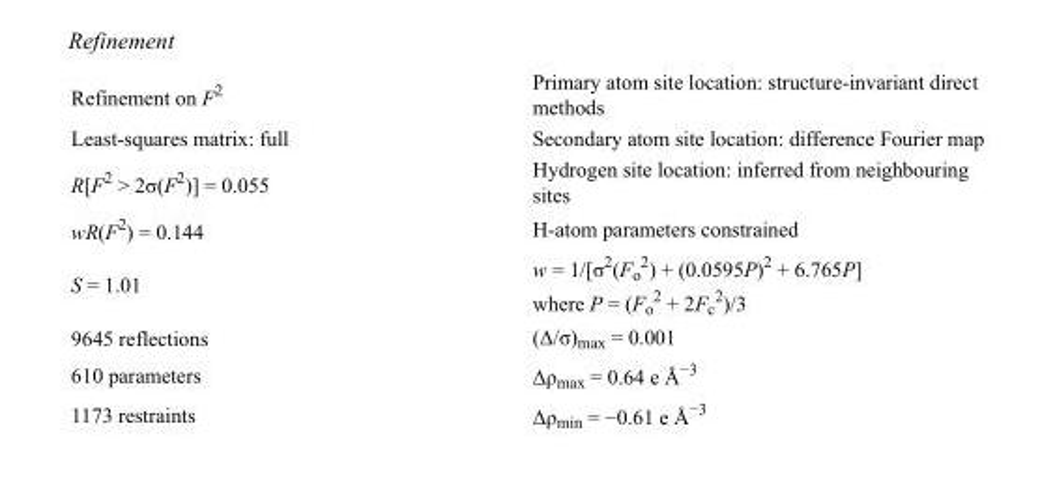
<table><tbody><tr><td>Refinement on F<sup>2</sup></td><td>Primary atom site location: structure-invariant direct methods</td></tr><tr><td>Least-squares matrix: full</td><td>Secondary atom site location: difference Fourier map</td></tr><tr><td>R[F<sup>2</sup> &gt; 2σ(F<sup>2</sup>)] = 0.055</td><td>Hydrogen site location: inferred from neighbouring sites</td></tr><tr><td>wR(F<sup>2</sup>) = 0.144</td><td>H-atom parameters constrained</td></tr><tr><td>S = 1.01</td><td>w = 1/[σ<sup>2</sup>(F<sub>o</sub> <sup>2</sup>) + (0.0595P)<sup>2</sup> + 6.765P] where P = (F<sub>o</sub> <sup>2</sup> + 2F<sub>c</sub> <sup>2</sup>)/3</td></tr><tr><td>9645 reflections</td><td>(Δ/σ)<sub>max</sub> = 0.001</td></tr><tr><td>610 parameters</td><td>Δρ<sub>max</sub> = 0.64 e Å<sup>−3</sup></td></tr><tr><td>1173 restraints</td><td>Δρ<sub>min</sub> = −0.61 e Å<sup>−3</sup></td></tr></tbody></table>